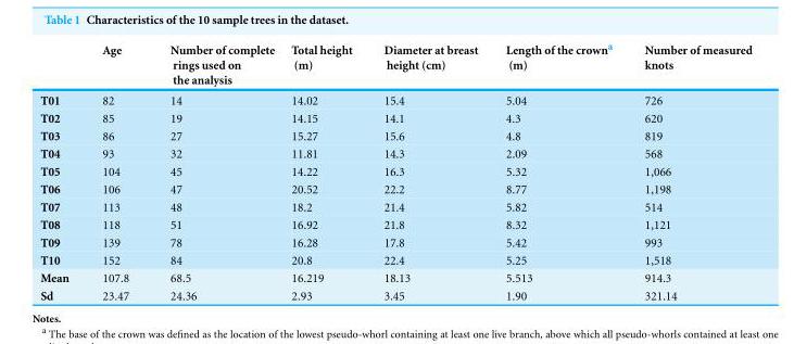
<table><thead><tr><td></td><td>Age</td><td>Number of complete rings used on the analysis</td><td>Total height (m)</td><td>Diameter at breast height (cm)</td><td>Length of the crown<sup>a</sup> (m)</td><td>Number of measured knots</td></tr></thead><tbody><tr><td>T01</td><td>82</td><td>14</td><td>14.02</td><td>15.4</td><td>5.04</td><td>726</td></tr><tr><td>T02</td><td>85</td><td>19</td><td>14.15</td><td>14.1</td><td>4.3</td><td>620</td></tr><tr><td>T03</td><td>86</td><td>27</td><td>15.27</td><td>15.6</td><td>4.8</td><td>819</td></tr><tr><td>T04</td><td>93</td><td>32</td><td>11.81</td><td>14.3</td><td>2.09</td><td>568</td></tr><tr><td>T05</td><td>104</td><td>45</td><td>14.22</td><td>16.3</td><td>5.32</td><td>1,066</td></tr><tr><td>T06</td><td>106</td><td>47</td><td>20.52</td><td>22.2</td><td>8.77</td><td>1,198</td></tr><tr><td>T07</td><td>113</td><td>48</td><td>18.2</td><td>21.4</td><td>5.82</td><td>514</td></tr><tr><td>T08</td><td>118</td><td>51</td><td>16.92</td><td>21.8</td><td>8.32</td><td>1,121</td></tr><tr><td>T09</td><td>139</td><td>78</td><td>16.28</td><td>17.8</td><td>5.42</td><td>993</td></tr><tr><td>T10</td><td>152</td><td>84</td><td>20.8</td><td>22.4</td><td>5.25</td><td>1,518</td></tr><tr><td>Mean</td><td>107.8</td><td>68.5</td><td>16.219</td><td>18.13</td><td>5.513</td><td>914.3</td></tr><tr><td>Sd</td><td>23.47</td><td>24.36</td><td>2.93</td><td>3.45</td><td>1.90</td><td>321.14</td></tr></tbody></table>